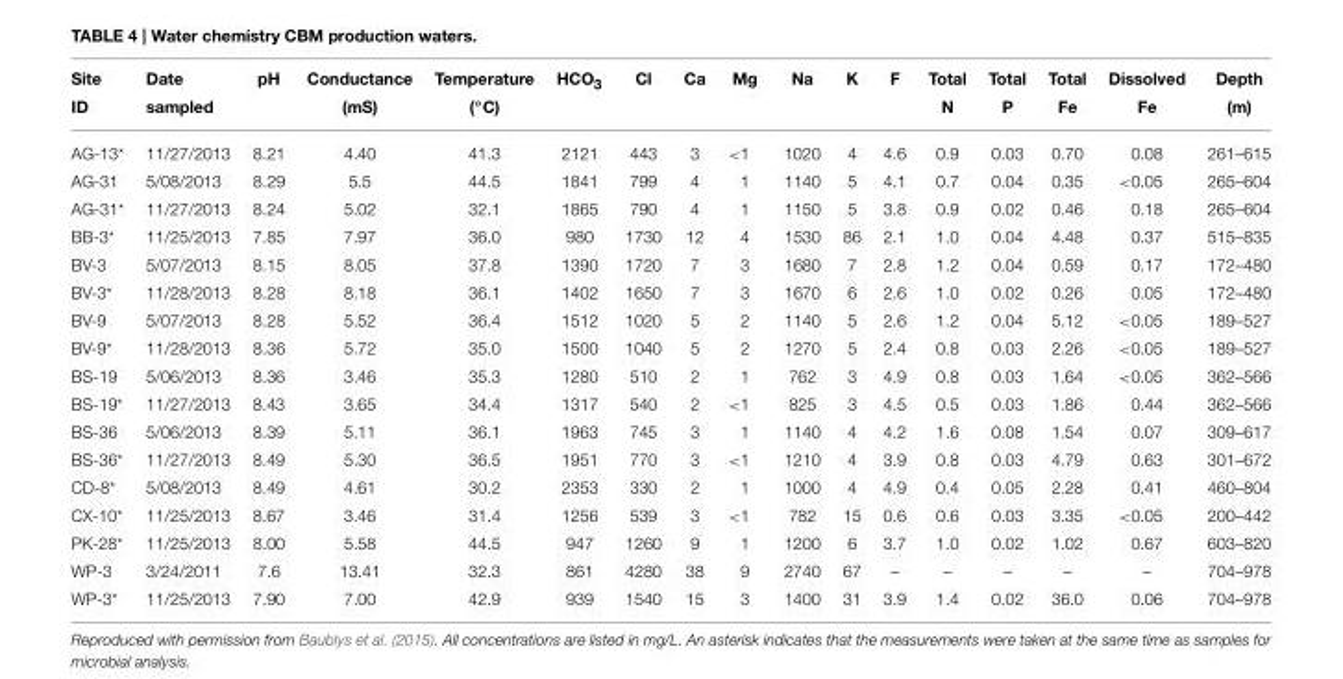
<table><thead><tr><td>Site ID</td><td>Date sampled</td><td>pH</td><td>Conductance (mS)</td><td>Temperature (◦C)</td><td>HCO<sub>3</sub></td><td>Cl</td><td>Ca</td><td>Mg</td><td>Na</td><td>K</td><td>F</td><td>Total N</td><td>Total P</td><td>Total Fe</td><td>Dissolved Fe</td><td>Depth (m)</td></tr></thead><tbody><tr><td>AG-13*</td><td>11/27/2013</td><td>8.21</td><td>4.40</td><td>41.3</td><td>2121</td><td>443</td><td>3</td><td>&lt;1</td><td>1020</td><td>4</td><td>4.6</td><td>0.9</td><td>0.03</td><td>0.70</td><td>0.08</td><td>261–615</td></tr><tr><td>AG-31</td><td>5/08/2013</td><td>8.29</td><td>5.5</td><td>44.5</td><td>1841</td><td>799</td><td>4</td><td>1</td><td>1140</td><td>5</td><td>4.1</td><td>0.7</td><td>0.04</td><td>0.35</td><td>&lt;0.05</td><td>265–604</td></tr><tr><td>AG-31*</td><td>11/27/2013</td><td>8.24</td><td>5.02</td><td>32.1</td><td>1865</td><td>790</td><td>4</td><td>1</td><td>1150</td><td>5</td><td>3.8</td><td>0.9</td><td>0.02</td><td>0.46</td><td>0.18</td><td>265–604</td></tr><tr><td>BB-3*</td><td>11/25/2013</td><td>7.85</td><td>7.97</td><td>36.0</td><td>980</td><td>1730</td><td>12</td><td>4</td><td>1530</td><td>86</td><td>2.1</td><td>1.0</td><td>0.04</td><td>4.48</td><td>0.37</td><td>515–835</td></tr><tr><td>BV-3</td><td>5/07/2013</td><td>8.15</td><td>8.05</td><td>37.8</td><td>1390</td><td>1720</td><td>7</td><td>3</td><td>1680</td><td>7</td><td>2.8</td><td>1.2</td><td>0.04</td><td>0.59</td><td>0.17</td><td>172–480</td></tr><tr><td>BV-3*</td><td>11/28/2013</td><td>8.28</td><td>8.18</td><td>36.1</td><td>1402</td><td>1650</td><td>7</td><td>3</td><td>1670</td><td>6</td><td>2.6</td><td>1.0</td><td>0.02</td><td>0.26</td><td>0.05</td><td>172–480</td></tr><tr><td>BV-9</td><td>5/07/2013</td><td>8.28</td><td>5.52</td><td>36.4</td><td>1512</td><td>1020</td><td>5</td><td>2</td><td>1140</td><td>5</td><td>2.6</td><td>1.2</td><td>0.04</td><td>5.12</td><td>&lt;0.05</td><td>189–527</td></tr><tr><td>BV-9*</td><td>11/28/2013</td><td>8.36</td><td>5.72</td><td>35.0</td><td>1500</td><td>1040</td><td>5</td><td>2</td><td>1270</td><td>5</td><td>2.4</td><td>0.8</td><td>0.03</td><td>2.26</td><td>&lt;0.05</td><td>189–527</td></tr><tr><td>BS-19</td><td>5/06/2013</td><td>8.36</td><td>3.46</td><td>35.3</td><td>1280</td><td>510</td><td>2</td><td>1</td><td>762</td><td>3</td><td>4.9</td><td>0.8</td><td>0.03</td><td>1.64</td><td>&lt;0.05</td><td>362–566</td></tr><tr><td>BS-19*</td><td>11/27/2013</td><td>8.43</td><td>3.65</td><td>34.4</td><td>1317</td><td>540</td><td>2</td><td>&lt;1</td><td>825</td><td>3</td><td>4.5</td><td>0.5</td><td>0.03</td><td>1.86</td><td>0.44</td><td>362–566</td></tr><tr><td>BS-36</td><td>5/06/2013</td><td>8.39</td><td>5.11</td><td>36.1</td><td>1963</td><td>745</td><td>3</td><td>1</td><td>1140</td><td>4</td><td>4.2</td><td>1.6</td><td>0.08</td><td>1.54</td><td>0.07</td><td>309–617</td></tr><tr><td>BS-36*</td><td>11/27/2013</td><td>8.49</td><td>5.30</td><td>36.5</td><td>1951</td><td>770</td><td>3</td><td>&lt;1</td><td>1210</td><td>4</td><td>3.9</td><td>0.8</td><td>0.03</td><td>4.79</td><td>0.63</td><td>301–672</td></tr><tr><td>CD-8*</td><td>5/08/2013</td><td>8.49</td><td>4.61</td><td>30.2</td><td>2353</td><td>330</td><td>2</td><td>1</td><td>1000</td><td>4</td><td>4.9</td><td>0.4</td><td>0.05</td><td>2.28</td><td>0.41</td><td>460–804</td></tr><tr><td>CX-10*</td><td>11/25/2013</td><td>8.67</td><td>3.46</td><td>31.4</td><td>1256</td><td>539</td><td>3</td><td>&lt;1</td><td>782</td><td>15</td><td>0.6</td><td>0.6</td><td>0.03</td><td>3.35</td><td>&lt;0.05</td><td>200–442</td></tr><tr><td>PK-28*</td><td>11/25/2013</td><td>8.00</td><td>5.58</td><td>44.5</td><td>947</td><td>1260</td><td>9</td><td>1</td><td>1200</td><td>6</td><td>3.7</td><td>1.0</td><td>0.02</td><td>1.02</td><td>0.67</td><td>603–820</td></tr><tr><td>WP-3</td><td>3/24/2011</td><td>7.6</td><td>13.41</td><td>32.3</td><td>861</td><td>4280</td><td>38</td><td>9</td><td>2740</td><td>67</td><td>–</td><td>–</td><td>–</td><td>–</td><td>–</td><td>704–978</td></tr><tr><td>WP-3*</td><td>11/25/2013</td><td>7.90</td><td>7.00</td><td>42.9</td><td>939</td><td>1540</td><td>15</td><td>3</td><td>1400</td><td>31</td><td>3.9</td><td>1.4</td><td>0.02</td><td>36.0</td><td>0.06</td><td>704–978</td></tr></tbody></table>